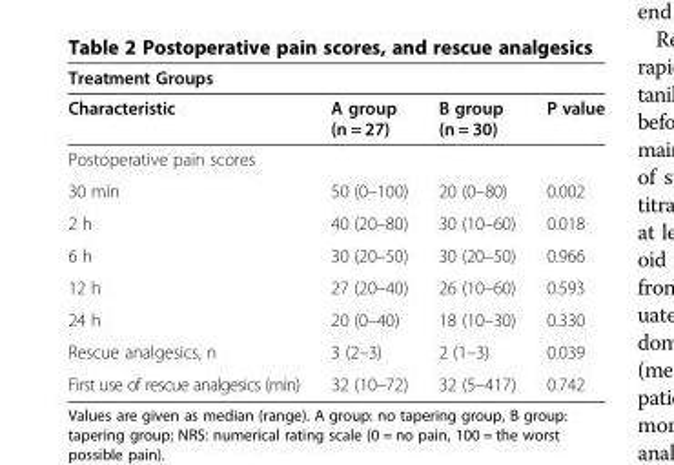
<table><thead><tr><td colspan="4">Treatment Groups</td></tr><tr><td>Characteristic</td><td>A group (n = 27)</td><td>B group (n = 30)</td><td>P value</td></tr></thead><tbody><tr><td colspan="4">Postoperative pain scores</td></tr><tr><td>30 min</td><td>50 (0–100)</td><td>20 (0–80)</td><td>0.002</td></tr><tr><td>2 h</td><td>40 (20–80)</td><td>30 (10–60)</td><td>0.018</td></tr><tr><td>6 h</td><td>30 (20–50)</td><td>30 (20–50)</td><td>0.966</td></tr><tr><td>12 h</td><td>27 (20–40)</td><td>26 (10–60)</td><td>0.593</td></tr><tr><td>24 h</td><td>20 (0–40)</td><td>18 (10–30)</td><td>0.330</td></tr><tr><td>Rescue analgesics, n</td><td>3 (2–3)</td><td>2 (1–3)</td><td>0.039</td></tr><tr><td>First use of rescue analgesics (min)</td><td>32 (10–72)</td><td>32 (5–417)</td><td>0.742</td></tr></tbody></table>